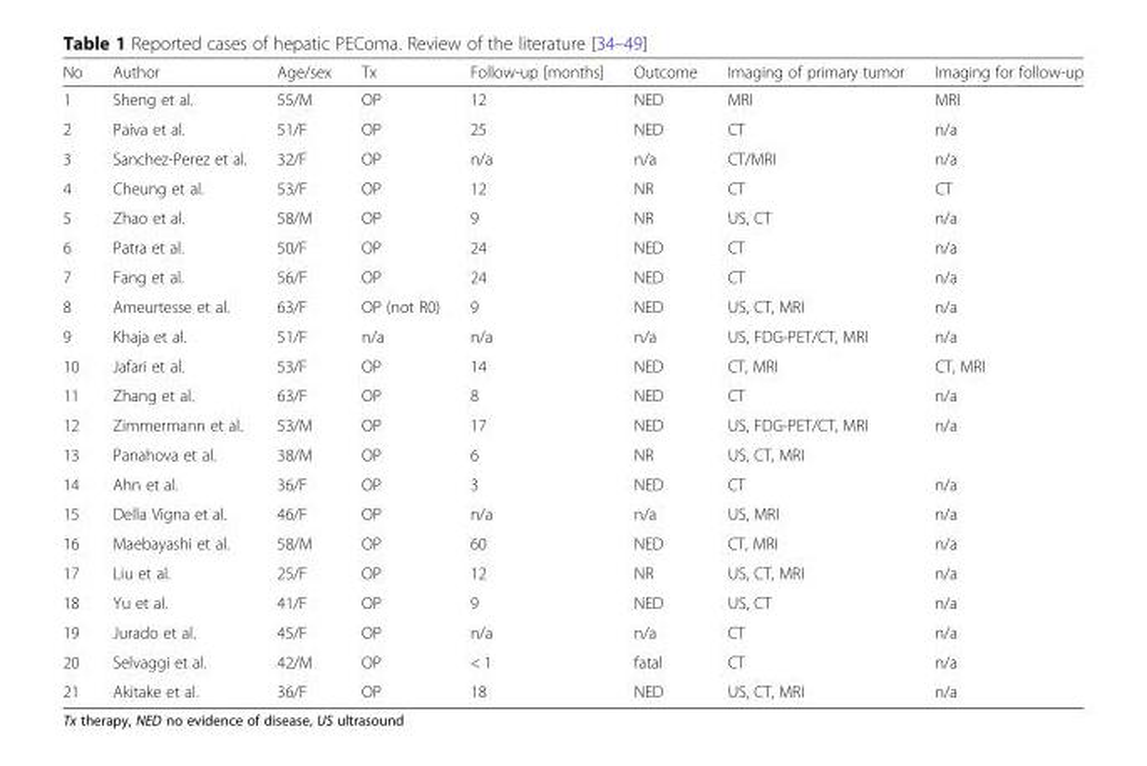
<table><thead><tr><td>No</td><td>Author</td><td>Age/sex</td><td>Tx</td><td>Follow-up [months]</td><td>Outcome</td><td>Imaging of primary tumor</td><td>Imaging for follow-up</td></tr></thead><tbody><tr><td>1</td><td>Sheng et al.</td><td>55/M</td><td>OP</td><td>12</td><td>NED</td><td>MRI</td><td>MRI</td></tr><tr><td>2</td><td>Paiva et al.</td><td>51/F</td><td>OP</td><td>25</td><td>NED</td><td>CT</td><td>n/a</td></tr><tr><td>3</td><td>Sanchez-Perez et al.</td><td>32/F</td><td>OP</td><td>n/a</td><td>n/a</td><td>CT/MRI</td><td>n/a</td></tr><tr><td>4</td><td>Cheung et al.</td><td>53/F</td><td>OP</td><td>12</td><td>NR</td><td>CT</td><td>CT</td></tr><tr><td>5</td><td>Zhao et al.</td><td>58/M</td><td>OP</td><td>9</td><td>NR</td><td>US, CT</td><td>n/a</td></tr><tr><td>6</td><td>Patra et al.</td><td>50/F</td><td>OP</td><td>24</td><td>NED</td><td>CT</td><td>n/a</td></tr><tr><td>7</td><td>Fang et al.</td><td>56/F</td><td>OP</td><td>24</td><td>NED</td><td>CT</td><td>n/a</td></tr><tr><td>8</td><td>Ameurtesse et al.</td><td>63/F</td><td>OP (not R0)</td><td>9</td><td>NED</td><td>US, CT, MRI</td><td>n/a</td></tr><tr><td>9</td><td>Khaja et al.</td><td>51/F</td><td>n/a</td><td>n/a</td><td>n/a</td><td>US, FDG-PET/CT, MRI</td><td>n/a</td></tr><tr><td>10</td><td>Jafari et al.</td><td>53/F</td><td>OP</td><td>14</td><td>NED</td><td>CT, MRI</td><td>CT, MRI</td></tr><tr><td>11</td><td>Zhang et al.</td><td>63/F</td><td>OP</td><td>8</td><td>NED</td><td>CT</td><td>n/a</td></tr><tr><td>12</td><td>Zimmermann et al.</td><td>53/M</td><td>OP</td><td>17</td><td>NED</td><td>US, FDG-PET/CT, MRI</td><td>n/a</td></tr><tr><td>13</td><td>Panahova et al.</td><td>38/M</td><td>OP</td><td>6</td><td>NR</td><td>US, CT, MRI</td><td></td></tr><tr><td>14</td><td>Ahn et al.</td><td>36/F</td><td>OP</td><td>3</td><td>NED</td><td>CT</td><td>n/a</td></tr><tr><td>15</td><td>Della Vigna et al.</td><td>46/F</td><td>OP</td><td>n/a</td><td>n/a</td><td>US, MRI</td><td>n/a</td></tr><tr><td>16</td><td>Maebayashi et al.</td><td>58/M</td><td>OP</td><td>60</td><td>NED</td><td>CT, MRI</td><td>n/a</td></tr><tr><td>17</td><td>Liu et al.</td><td>25/F</td><td>OP</td><td>12</td><td>NR</td><td>US, CT, MRI</td><td>n/a</td></tr><tr><td>18</td><td>Yu et al.</td><td>41/F</td><td>OP</td><td>9</td><td>NED</td><td>US, CT</td><td>n/a</td></tr><tr><td>19</td><td>Jurado et al.</td><td>45/F</td><td>OP</td><td>n/a</td><td>n/a</td><td>CT</td><td>n/a</td></tr><tr><td>20</td><td>Selvaggi et al.</td><td>42/M</td><td>OP</td><td>&lt; 1</td><td>fatal</td><td>CT</td><td>n/a</td></tr><tr><td>21</td><td>Akitake et al.</td><td>36/F</td><td>OP</td><td>18</td><td>NED</td><td>US, CT, MRI</td><td>n/a</td></tr></tbody></table>